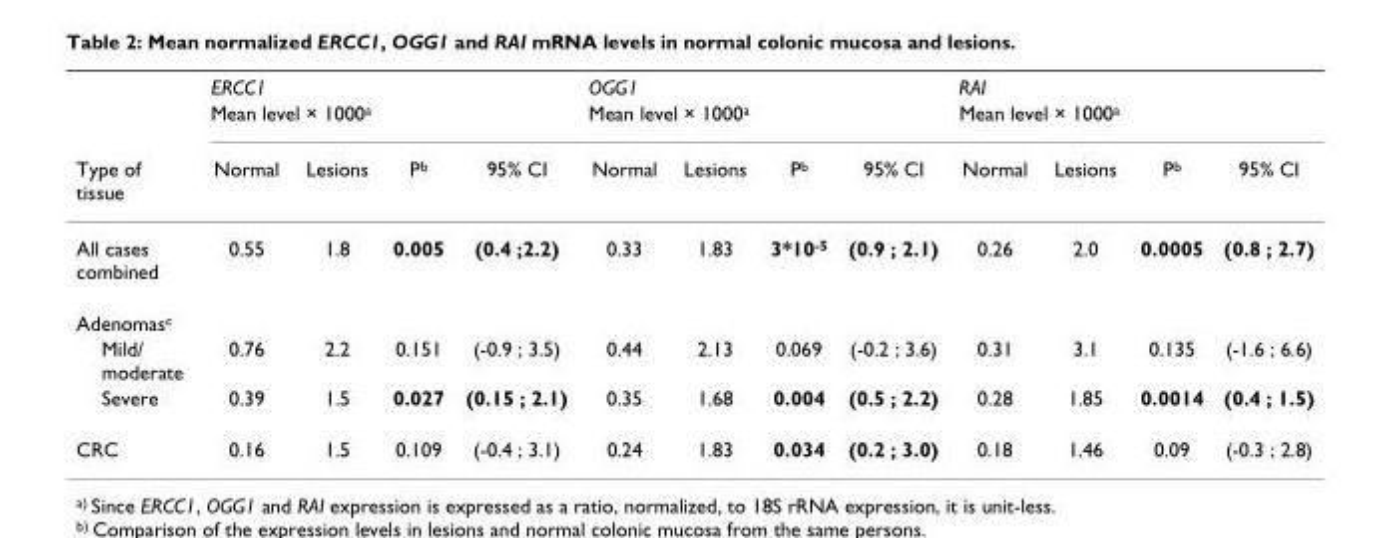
<table><thead><tr><td rowspan="3">Type of tissue</td><td rowspan="2" colspan="2">ERCC1 Mean level × 1000a</td><td rowspan="3">Pb</td><td rowspan="3">95% CI</td><td rowspan="2" colspan="2">OGG1 Mean level × 1000a</td><td rowspan="3">Pb</td><td rowspan="3">95% CI</td><td rowspan="2" colspan="2">RAI Mean level × 1000a</td><td rowspan="3">Pb</td><td rowspan="3">95% CI</td></tr><tr></tr><tr><td>Normal</td><td>Lesions</td><td>Normal</td><td>Lesions</td><td>Normal</td><td>Lesions</td></tr></thead><tbody><tr><td>All cases combined</td><td>0.55</td><td>1.8</td><td>0.005</td><td>(0.4 ;2.2)</td><td>0.33</td><td>1.83</td><td>3*10-5</td><td>(0.9 ; 2.1)</td><td>0.26</td><td>2.0</td><td>0.0005</td><td>(0.8 ; 2.7)</td></tr><tr><td colspan="13">Adenomasc</td></tr><tr><td>Mild/ moderate</td><td>0.76</td><td>2.2</td><td>0.151</td><td>(-0.9 ; 3.5)</td><td>0.44</td><td>2.13</td><td>0.069</td><td>(-0.2 ; 3.6)</td><td>0.31</td><td>3.1</td><td>0.135</td><td>(-1.6 ; 6.6)</td></tr><tr><td>Severe</td><td>0.39</td><td>1.5</td><td>0.027</td><td>(0.15 ; 2.1)</td><td>0.35</td><td>1.68</td><td>0.004</td><td>(0.5 ; 2.2)</td><td>0.28</td><td>1.85</td><td>0.0014</td><td>(0.4 ; 1.5)</td></tr><tr><td>CRC</td><td>0.16</td><td>1.5</td><td>0.109</td><td>(-0.4 ; 3.1)</td><td>0.24</td><td>1.83</td><td>0.034</td><td>(0.2 ; 3.0)</td><td>0.18</td><td>1.46</td><td>0.09</td><td>(-0.3 ; 2.8)</td></tr></tbody></table>